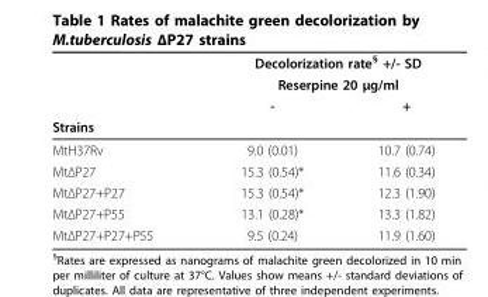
<table><thead><tr><td rowspan="4">Strains</td><td rowspan="2" colspan="2">Decolorization rate<sup>§</sup> +/- SD Reserpine 20 μg/ml</td></tr><tr></tr><tr><td rowspan="2">-</td><td rowspan="2">+</td></tr><tr></tr></thead><tbody><tr><td>MtH37Rv</td><td>9.0 (0.01)</td><td>10.7 (0.74)</td></tr><tr><td>MtΔP27</td><td>15.3 (0.54)*</td><td>11.6 (0.34)</td></tr><tr><td>MtΔP27+P27</td><td>15.3 (0.54)*</td><td>12.3 (1.90)</td></tr><tr><td>MtΔP27+P55</td><td>13.1 (0.28)*</td><td>13.3 (1.82)</td></tr><tr><td>MtΔP27+P27+P55</td><td>9.5 (0.24)</td><td>11.9 (1.60)</td></tr></tbody></table>